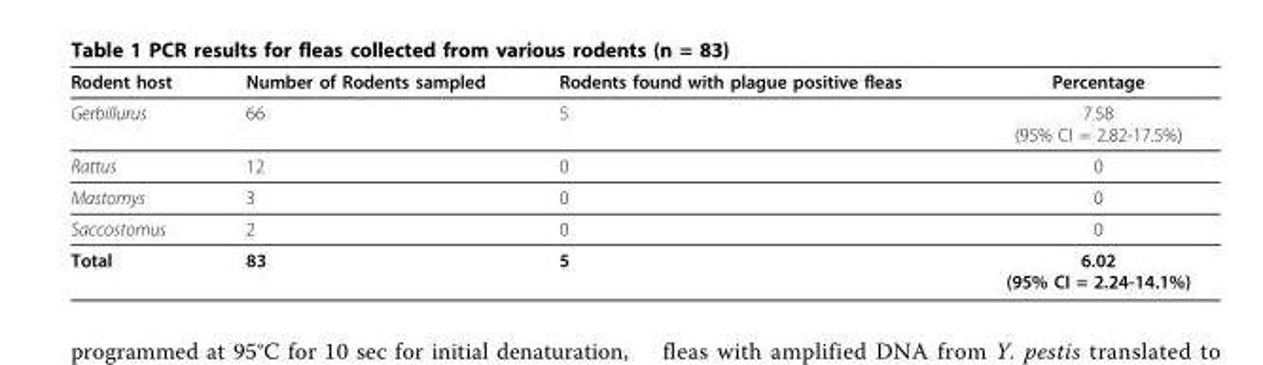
<table><thead><tr><td>Rodent host</td><td>Number of Rodents sampled</td><td>Rodents found with plague positive fleas</td><td>Percentage</td></tr></thead><tbody><tr><td>Gerbillurus</td><td>66</td><td>5</td><td>7.58 (95% CI = 2.82-17.5%)</td></tr><tr><td>Rattus</td><td>12</td><td>0</td><td>0</td></tr><tr><td>Mastomys</td><td>3</td><td>0</td><td>0</td></tr><tr><td>Saccostomus</td><td>2</td><td>0</td><td>0</td></tr><tr><td>Total</td><td>83</td><td>5</td><td>6.02 (95% CI = 2.24-14.1%)</td></tr></tbody></table>